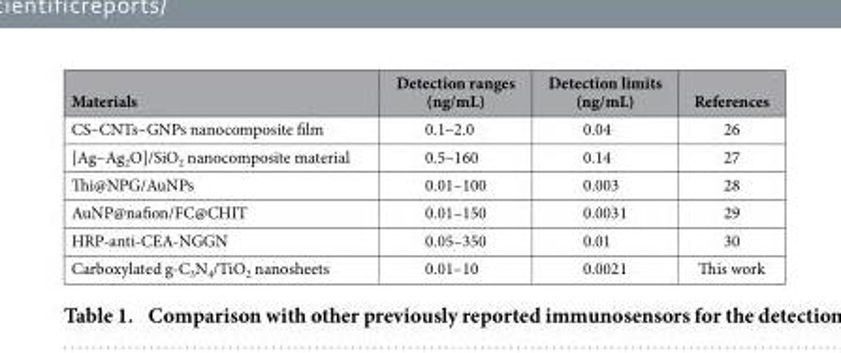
<table><thead><tr><td>Materials</td><td>Detection ranges (ng/mL)</td><td>Detection limits (ng/mL)</td><td>References</td></tr></thead><tbody><tr><td>CS–CNTs–GNPs nanocomposite film</td><td>0.1–2.0</td><td>0.04</td><td>26</td></tr><tr><td>[Ag–Ag<sub>2</sub>O]/SiO<sub>2</sub> nanocomposite material</td><td>0.5–160</td><td>0.14</td><td>27</td></tr><tr><td>Thi@NPG/AuNPs</td><td>0.01–100</td><td>0.003</td><td>28</td></tr><tr><td>AuNP@nafion/FC@CHIT</td><td>0.01–150</td><td>0.0031</td><td>29</td></tr><tr><td>HRP-anti-CEA-NGGN</td><td>0.05–350</td><td>0.01</td><td>30</td></tr><tr><td>Carboxylated g-C<sub>3</sub>N<sub>4</sub>/TiO<sub>2</sub> nanosheets</td><td>0.01–10</td><td>0.0021</td><td>This work</td></tr></tbody></table>